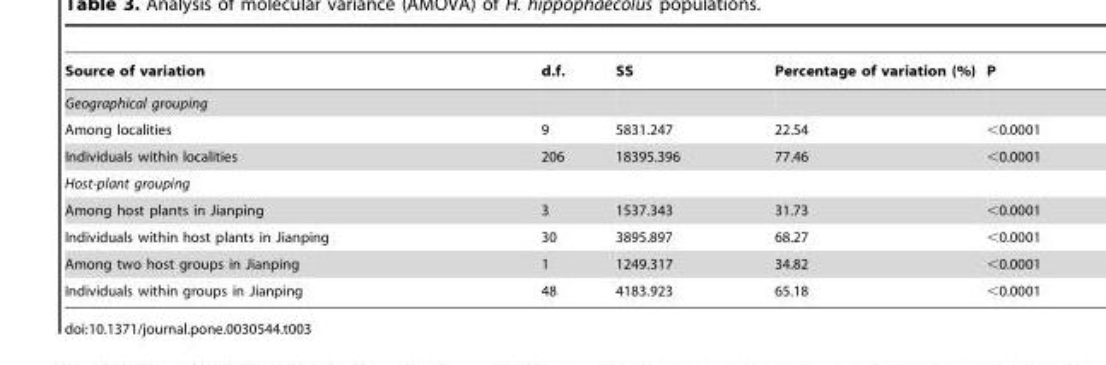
<table><thead><tr><td>Source of variation</td><td>d.f.</td><td>SS</td><td>Percentage of variation (%)</td><td>P</td></tr></thead><tbody><tr><td colspan="5">Geographical grouping</td></tr><tr><td>Among localities</td><td>9</td><td>5831.247</td><td>22.54</td><td>&lt;0.0001</td></tr><tr><td>Individuals within localities</td><td>206</td><td>18395.396</td><td>77.46</td><td>&lt;0.0001</td></tr><tr><td colspan="5">Host-plant grouping</td></tr><tr><td>Among host plants in Jianping</td><td>3</td><td>1537.343</td><td>31.73</td><td>&lt;0.0001</td></tr><tr><td>Individuals within host plants in Jianping</td><td>30</td><td>3895.897</td><td>68.27</td><td>&lt;0.0001</td></tr><tr><td>Among two host groups in Jianping</td><td>1</td><td>1249.317</td><td>34.82</td><td>&lt;0.0001</td></tr><tr><td>Individuals within groups in Jianping</td><td>48</td><td>4183.923</td><td>65.18</td><td>&lt;0.0001</td></tr></tbody></table>